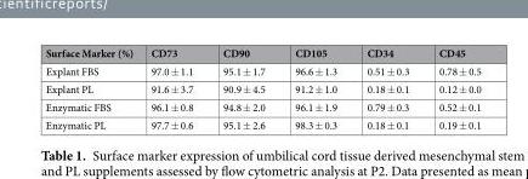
<table><thead><tr><td>Surface Marker (%)</td><td>CD73</td><td>CD90</td><td>CD105</td><td>CD34</td><td>CD45</td></tr></thead><tbody><tr><td>Explant FBS</td><td>97.0 ± 1.1</td><td>95.1 ± 1.7</td><td>96.6 ± 1.3</td><td>0.51 ± 0.3</td><td>0.78 ± 0.5</td></tr><tr><td>Explant PL</td><td>91.6 ± 3.7</td><td>90.9 ± 4.5</td><td>91.2 ± 1.0</td><td>0.18 ± 0.1</td><td>0.12 ± 0.0</td></tr><tr><td>Enzymatic FBS</td><td>96.1 ± 0.8</td><td>94.8 ± 2.0</td><td>96.1 ± 1.9</td><td>0.79 ± 0.3</td><td>0.52 ± 0.1</td></tr><tr><td>Enzymatic PL</td><td>97.7 ± 0.6</td><td>95.1 ± 2.6</td><td>98.3 ± 0.3</td><td>0.18 ± 0.1</td><td>0.19 ± 0.1</td></tr></tbody></table>